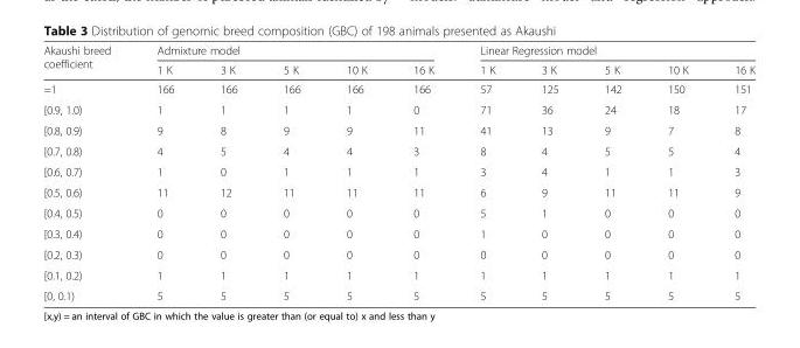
<table><thead><tr><td rowspan="2">Akaushi breed coefficient</td><td colspan="5">Admixture model</td><td colspan="5">Linear Regression model</td></tr><tr><td>1 K</td><td>3 K</td><td>5 K</td><td>10 K</td><td>16 K</td><td>1 K</td><td>3 K</td><td>5 K</td><td>10 K</td><td>16 K</td></tr></thead><tbody><tr><td>=1</td><td>166</td><td>166</td><td>166</td><td>166</td><td>166</td><td>57</td><td>125</td><td>142</td><td>150</td><td>151</td></tr><tr><td>[0.9, 1.0)</td><td>1</td><td>1</td><td>1</td><td>1</td><td>0</td><td>71</td><td>36</td><td>24</td><td>18</td><td>17</td></tr><tr><td>[0.8, 0.9)</td><td>9</td><td>8</td><td>9</td><td>9</td><td>11</td><td>41</td><td>13</td><td>9</td><td>7</td><td>8</td></tr><tr><td>[0.7, 0.8)</td><td>4</td><td>5</td><td>4</td><td>4</td><td>3</td><td>8</td><td>4</td><td>5</td><td>5</td><td>4</td></tr><tr><td>[0.6, 0.7)</td><td>1</td><td>0</td><td>1</td><td>1</td><td>1</td><td>3</td><td>4</td><td>1</td><td>1</td><td>3</td></tr><tr><td>[0.5, 0.6)</td><td>11</td><td>12</td><td>11</td><td>11</td><td>11</td><td>6</td><td>9</td><td>11</td><td>11</td><td>9</td></tr><tr><td>[0.4, 0.5)</td><td>0</td><td>0</td><td>0</td><td>0</td><td>0</td><td>5</td><td>1</td><td>0</td><td>0</td><td>0</td></tr><tr><td>[0.3, 0.4)</td><td>0</td><td>0</td><td>0</td><td>0</td><td>0</td><td>1</td><td>0</td><td>0</td><td>0</td><td>0</td></tr><tr><td>[0.2, 0.3)</td><td>0</td><td>0</td><td>0</td><td>0</td><td>0</td><td>0</td><td>0</td><td>0</td><td>0</td><td>0</td></tr><tr><td>[0.1, 0.2)</td><td>1</td><td>1</td><td>1</td><td>1</td><td>1</td><td>1</td><td>1</td><td>1</td><td>1</td><td>1</td></tr><tr><td>[0, 0.1)</td><td>5</td><td>5</td><td>5</td><td>5</td><td>5</td><td>5</td><td>5</td><td>5</td><td>5</td><td>5</td></tr></tbody></table>